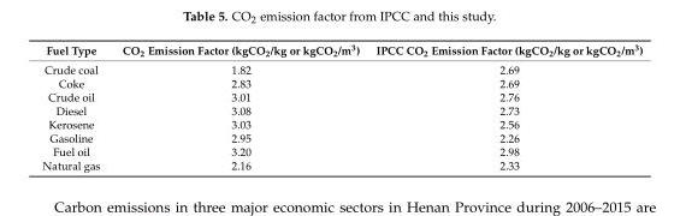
<table><thead><tr><td>Fuel Type</td><td>CO<sub>2</sub> Emission Factor (kgCO<sub>2</sub>/kg or kgCO<sub>2</sub>/m<sup>3</sup>)</td><td>IPCC CO<sub>2</sub> Emission Factor (kgCO<sub>2</sub>/kg or kgCO<sub>2</sub>/m<sup>3</sup>)</td></tr></thead><tbody><tr><td>Crude coal</td><td>1.82</td><td>2.69</td></tr><tr><td>Coke</td><td>2.83</td><td>2.69</td></tr><tr><td>Crude oil</td><td>3.01</td><td>2.76</td></tr><tr><td>Diesel</td><td>3.08</td><td>2.73</td></tr><tr><td>Kerosene</td><td>3.03</td><td>2.56</td></tr><tr><td>Gasoline</td><td>2.95</td><td>2.26</td></tr><tr><td>Fuel oil</td><td>3.20</td><td>2.98</td></tr><tr><td>Natural gas</td><td>2.16</td><td>2.33</td></tr></tbody></table>